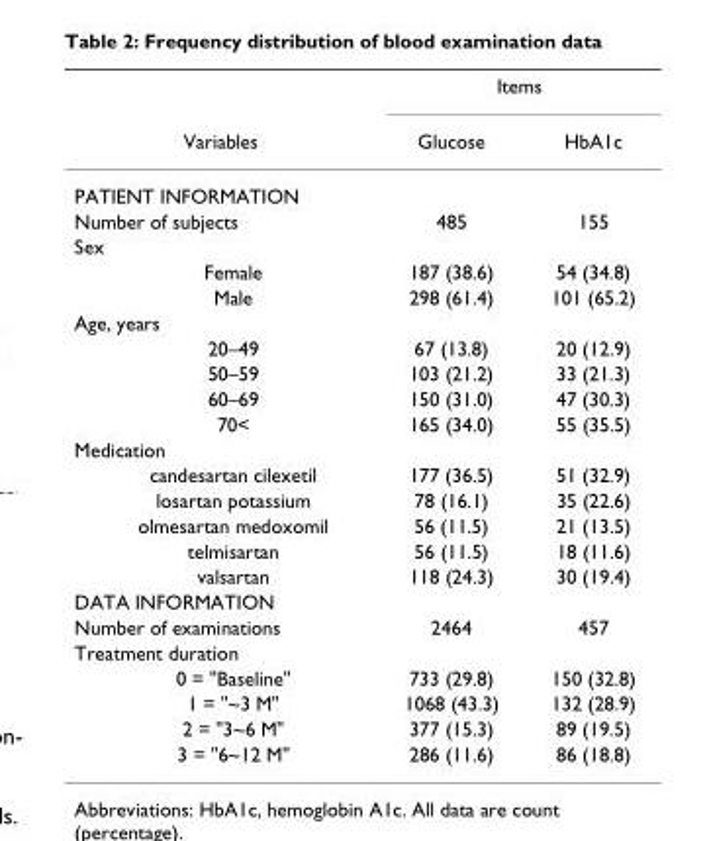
<table><thead><tr><td rowspan="2">Variables</td><td colspan="2">Items</td></tr><tr><td>Glucose</td><td>HbA1c</td></tr></thead><tbody><tr><td colspan="3">PATIENT INFORMATION</td></tr><tr><td>Number of subjects</td><td>485</td><td>155</td></tr><tr><td colspan="3">Sex</td></tr><tr><td>Female</td><td>187 (38.6)</td><td>54 (34.8)</td></tr><tr><td>Male</td><td>298 (61.4)</td><td>101 (65.2)</td></tr><tr><td colspan="3">Age, years</td></tr><tr><td>20–49</td><td>67 (13.8)</td><td>20 (12.9)</td></tr><tr><td>50–59</td><td>103 (21.2)</td><td>33 (21.3)</td></tr><tr><td>60–69</td><td>150 (31.0)</td><td>47 (30.3)</td></tr><tr><td>70&lt;</td><td>165 (34.0)</td><td>55 (35.5)</td></tr><tr><td colspan="3">Medication</td></tr><tr><td>candesartan cilexetil</td><td>177 (36.5)</td><td>51 (32.9)</td></tr><tr><td>losartan potassium</td><td>78 (16.1)</td><td>35 (22.6)</td></tr><tr><td>olmesartan medoxomil</td><td>56 (11.5)</td><td>21 (13.5)</td></tr><tr><td>telmisartan</td><td>56 (11.5)</td><td>18 (11.6)</td></tr><tr><td>valsartan</td><td>118 (24.3)</td><td>30 (19.4)</td></tr><tr><td colspan="3">DATA INFORMATION</td></tr><tr><td>Number of examinations</td><td>2464</td><td>457</td></tr><tr><td colspan="3">Treatment duration</td></tr><tr><td>0 = &quot;Baseline&quot;</td><td>733 (29.8)</td><td>150 (32.8)</td></tr><tr><td>1 = &quot;~3 M&quot;</td><td>1068 (43.3)</td><td>132 (28.9)</td></tr><tr><td>2 = &quot;3~6 M&quot;</td><td>377 (15.3)</td><td>89 (19.5)</td></tr><tr><td>3 = &quot;6~12 M&quot;</td><td>286 (11.6)</td><td>86 (18.8)</td></tr></tbody></table>